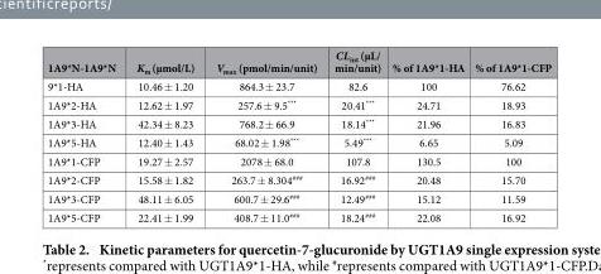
<table><thead><tr><td>1A9*N-1A9*N</td><td>K<sub>m</sub> (μmol/L)</td><td>V<sub>max</sub> (pmol/min/unit)</td><td>CL<sub>int</sub> (μL/ min/unit)</td><td>% of 1A9*1-HA</td><td>% of 1A9*1-CFP</td></tr></thead><tbody><tr><td>9*1-HA</td><td>10.46 ± 1.20</td><td>864.3 ± 23.7</td><td>82.6</td><td>100</td><td>76.62</td></tr><tr><td>1A9*2-HA</td><td>12.62 ± 1.97</td><td>257.6 ± 9.5***</td><td>20.41***</td><td>24.71</td><td>18.93</td></tr><tr><td>1A9*3-HA</td><td>42.34 ± 8.23</td><td>768.2 ± 66.9</td><td>18.14***</td><td>21.96</td><td>16.83</td></tr><tr><td>1A9*5-HA</td><td>12.40 ± 1.43</td><td>68.02 ± 1.98***</td><td>5.49***</td><td>6.65</td><td>5.09</td></tr><tr><td>1A9*1-CFP</td><td>19.27 ± 2.57</td><td>2078 ± 68.0</td><td>107.8</td><td>130.5</td><td>100</td></tr><tr><td>1A9*2-CFP</td><td>15.58 ± 1.82</td><td>263.7 ± 8.304<sup>###</sup></td><td>16.92<sup>###</sup></td><td>20.48</td><td>15.70</td></tr><tr><td>1A9*3-CFP</td><td>48.11 ± 6.05</td><td>600.7 ± 29.6<sup>###</sup></td><td>12.49<sup>###</sup></td><td>15.12</td><td>11.59</td></tr><tr><td>1A9*5-CFP</td><td>22.41 ± 1.99</td><td>408.7 ± 11.0<sup>###</sup></td><td>18.24<sup>###</sup></td><td>22.08</td><td>16.92</td></tr></tbody></table>